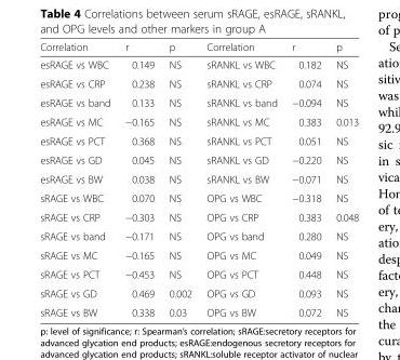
<table><thead><tr><td>Correlation</td><td>r</td><td>p</td><td>Correlation</td><td>r</td><td>p</td></tr></thead><tbody><tr><td>esRAGE vs WBC</td><td>0.149</td><td>NS</td><td>sRANKL vs WBC</td><td>0.182</td><td>NS</td></tr><tr><td>esRAGE vs CRP</td><td>0.238</td><td>NS</td><td>sRANKL vs CRP</td><td>0.074</td><td>NS</td></tr><tr><td>esRAGE vs band</td><td>0.133</td><td>NS</td><td>sRANKL vs band</td><td>−0.094</td><td>NS</td></tr><tr><td>esRAGE vs MC</td><td>−0.165</td><td>NS</td><td>sRANKL vs MC</td><td>0.383</td><td>0.013</td></tr><tr><td>esRAGE vs PCT</td><td>0.368</td><td>NS</td><td>sRANKL vs PCT</td><td>0.051</td><td>NS</td></tr><tr><td>esRAGE vs GD</td><td>0.045</td><td>NS</td><td>sRANKL vs GD</td><td>−0.220</td><td>NS</td></tr><tr><td>esRAGE vs BW</td><td>0.038</td><td>NS</td><td>sRANKL vs BW</td><td>−0.071</td><td>NS</td></tr><tr><td>sRAGE vs WBC</td><td>0.070</td><td>NS</td><td>OPG vs WBC</td><td>−0.318</td><td>NS</td></tr><tr><td>sRAGE vs CRP</td><td>−0.303</td><td>NS</td><td>OPG vs CRP</td><td>0.383</td><td>0.048</td></tr><tr><td>sRAGE vs band</td><td>−0.171</td><td>NS</td><td>OPG vs band</td><td>0.280</td><td>NS</td></tr><tr><td>sRAGE vs MC</td><td>−0.165</td><td>NS</td><td>OPG vs MC</td><td>0.049</td><td>NS</td></tr><tr><td>sRAGE vs PCT</td><td>−0.453</td><td>NS</td><td>OPG vs PCT</td><td>0.448</td><td>NS</td></tr><tr><td>sRAGE vs GD</td><td>0.469</td><td>0.002</td><td>OPG vs GD</td><td>0.093</td><td>NS</td></tr><tr><td>sRAGE vs BW</td><td>0.338</td><td>0.03</td><td>OPG vs BW</td><td>0.072</td><td>NS</td></tr></tbody></table>